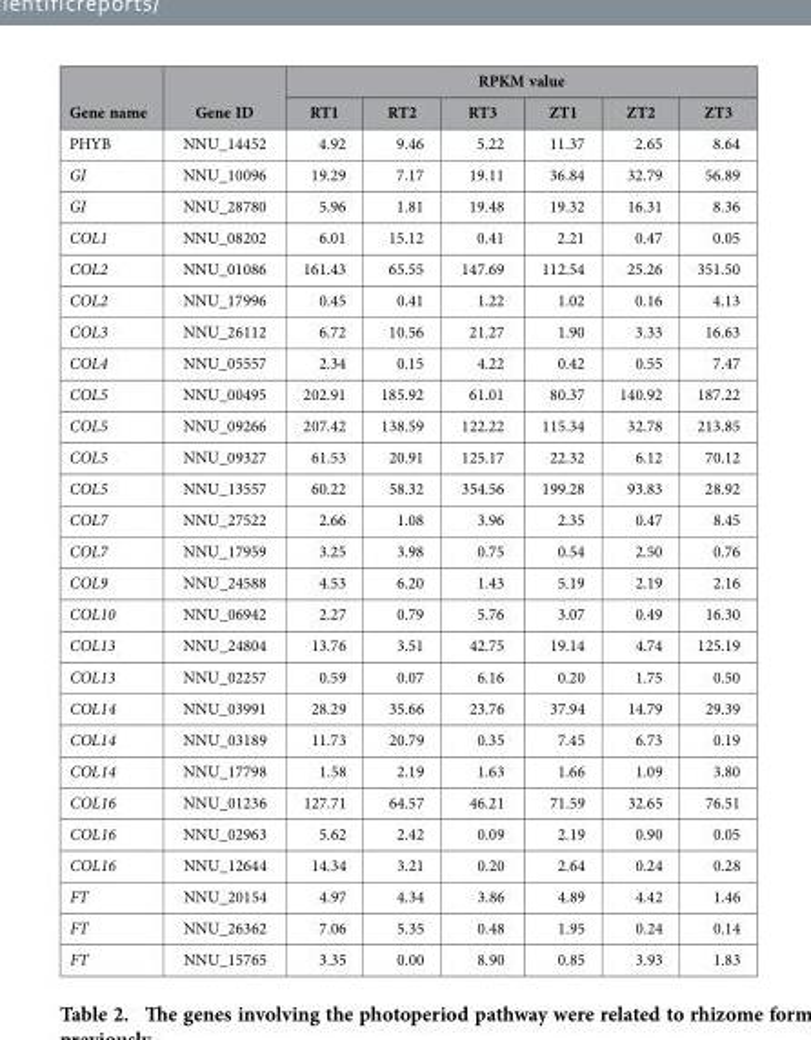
<table><thead><tr><td rowspan="2">Gene name</td><td rowspan="2">Gene ID</td><td colspan="6">RPKM value</td></tr><tr><td>RT1</td><td>RT2</td><td>RT3</td><td>ZT1</td><td>ZT2</td><td>ZT3</td></tr></thead><tbody><tr><td>PHYB</td><td>NNU_14452</td><td>4.92</td><td>9.46</td><td>5.22</td><td>11.37</td><td>2.65</td><td>8.64</td></tr><tr><td>GI</td><td>NNU_10096</td><td>19.29</td><td>7.17</td><td>19.11</td><td>36.84</td><td>32.79</td><td>56.89</td></tr><tr><td>GI</td><td>NNU_28780</td><td>5.96</td><td>1.81</td><td>19.48</td><td>19.32</td><td>16.31</td><td>8.36</td></tr><tr><td>COL1</td><td>NNU_08202</td><td>6.01</td><td>15.12</td><td>0.41</td><td>2.21</td><td>0.47</td><td>0.05</td></tr><tr><td>COL2</td><td>NNU_01086</td><td>161.43</td><td>65.55</td><td>147.69</td><td>112.54</td><td>25.26</td><td>351.50</td></tr><tr><td>COL2</td><td>NNU_17996</td><td>0.45</td><td>0.41</td><td>1.22</td><td>1.02</td><td>0.16</td><td>4.13</td></tr><tr><td>COL3</td><td>NNU_26112</td><td>6.72</td><td>10.56</td><td>21.27</td><td>1.90</td><td>3.33</td><td>16.63</td></tr><tr><td>COL4</td><td>NNU_05557</td><td>2.34</td><td>0.15</td><td>4.22</td><td>0.42</td><td>0.55</td><td>7.47</td></tr><tr><td>COL5</td><td>NNU_00495</td><td>202.91</td><td>185.92</td><td>61.01</td><td>80.37</td><td>140.92</td><td>187.22</td></tr><tr><td>COL5</td><td>NNU_09266</td><td>207.42</td><td>138.59</td><td>122.22</td><td>115.34</td><td>32.78</td><td>213.85</td></tr><tr><td>COL5</td><td>NNU_09327</td><td>61.53</td><td>20.91</td><td>125.17</td><td>22.32</td><td>6.12</td><td>70.12</td></tr><tr><td>COL5</td><td>NNU_13557</td><td>60.22</td><td>58.32</td><td>354.56</td><td>199.28</td><td>93.83</td><td>28.92</td></tr><tr><td>COL7</td><td>NNU_27522</td><td>2.66</td><td>1.08</td><td>3.96</td><td>2.35</td><td>0.47</td><td>8.45</td></tr><tr><td>COL7</td><td>NNU_17959</td><td>3.25</td><td>3.98</td><td>0.75</td><td>0.54</td><td>2.50</td><td>0.76</td></tr><tr><td>COL9</td><td>NNU_24588</td><td>4.53</td><td>6.20</td><td>1.43</td><td>5.19</td><td>2.19</td><td>2.16</td></tr><tr><td>COL10</td><td>NNU_06942</td><td>2.27</td><td>0.79</td><td>5.76</td><td>3.07</td><td>0.49</td><td>16.30</td></tr><tr><td>COL13</td><td>NNU_24804</td><td>13.76</td><td>3.51</td><td>42.75</td><td>19.14</td><td>4.74</td><td>125.19</td></tr><tr><td>COL13</td><td>NNU_02257</td><td>0.59</td><td>0.07</td><td>6.16</td><td>0.20</td><td>1.75</td><td>0.50</td></tr><tr><td>COL14</td><td>NNU_03991</td><td>28.29</td><td>35.66</td><td>23.76</td><td>37.94</td><td>14.79</td><td>29.39</td></tr><tr><td>COL14</td><td>NNU_03189</td><td>11.73</td><td>20.79</td><td>0.35</td><td>7.45</td><td>6.73</td><td>0.19</td></tr><tr><td>COL14</td><td>NNU_17798</td><td>1.58</td><td>2.19</td><td>1.63</td><td>1.66</td><td>1.09</td><td>3.80</td></tr><tr><td>COL16</td><td>NNU_01236</td><td>127.71</td><td>64.57</td><td>46.21</td><td>71.59</td><td>32.65</td><td>76.51</td></tr><tr><td>COL16</td><td>NNU_02963</td><td>5.62</td><td>2.42</td><td>0.09</td><td>2.19</td><td>0.90</td><td>0.05</td></tr><tr><td>COL16</td><td>NNU_12644</td><td>14.34</td><td>3.21</td><td>0.20</td><td>2.64</td><td>0.24</td><td>0.28</td></tr><tr><td>FT</td><td>NNU_20154</td><td>4.97</td><td>4.34</td><td>3.86</td><td>4.89</td><td>4.42</td><td>1.46</td></tr><tr><td>FT</td><td>NNU_26362</td><td>7.06</td><td>5.35</td><td>0.48</td><td>1.95</td><td>0.24</td><td>0.14</td></tr><tr><td>FT</td><td>NNU_15765</td><td>3.35</td><td>0.00</td><td>8.90</td><td>0.85</td><td>3.93</td><td>1.83</td></tr></tbody></table>